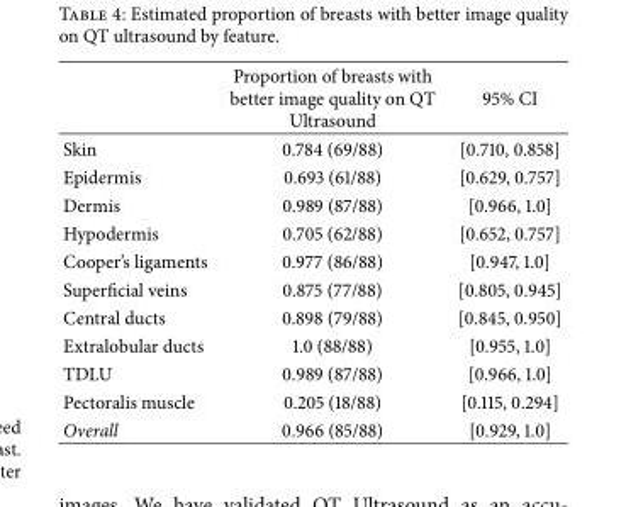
<table><thead><tr><td></td><td>Proportion of breasts with better image quality on QT Ultrasound</td><td>95% CI</td></tr></thead><tbody><tr><td>Skin</td><td>0.784 (69/88)</td><td>[0.710, 0.858]</td></tr><tr><td>Epidermis</td><td>0.693 (61/88)</td><td>[0.629, 0.757]</td></tr><tr><td>Dermis</td><td>0.989 (87/88)</td><td>[0.966, 1.0]</td></tr><tr><td>Hypodermis</td><td>0.705 (62/88)</td><td>[0.652, 0.757]</td></tr><tr><td>Cooper’s ligaments</td><td>0.977 (86/88)</td><td>[0.947, 1.0]</td></tr><tr><td>Superficial veins</td><td>0.875 (77/88)</td><td>[0.805, 0.945]</td></tr><tr><td>Central ducts</td><td>0.898 (79/88)</td><td>[0.845, 0.950]</td></tr><tr><td>Extralobular ducts</td><td>1.0 (88/88)</td><td>[0.955, 1.0]</td></tr><tr><td>TDLU</td><td>0.989 (87/88)</td><td>[0.966, 1.0]</td></tr><tr><td>Pectoralis muscle</td><td>0.205 (18/88)</td><td>[0.115, 0.294]</td></tr><tr><td>Overall</td><td>0.966 (85/88)</td><td>[0.929, 1.0]</td></tr></tbody></table>